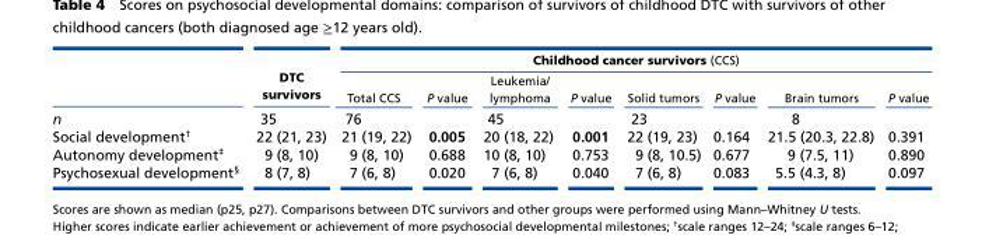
<table><thead><tr><td rowspan="2"></td><td rowspan="2">DTC survivors</td><td colspan="8">Childhood cancer survivors (CCS)</td></tr><tr><td>Total CCS</td><td>P value</td><td>Leukemia/ lymphoma</td><td>P value</td><td>Solid tumors</td><td>P value</td><td>Brain tumors</td><td>P value</td></tr></thead><tbody><tr><td>n</td><td>35</td><td>76</td><td></td><td>45</td><td></td><td>23</td><td></td><td>8</td><td></td></tr><tr><td>Social development<sup>†</sup></td><td>22 (21, 23)</td><td>21 (19, 22)</td><td>0.005</td><td>20 (18, 22)</td><td>0.001</td><td>22 (19, 23)</td><td>0.164</td><td>21.5 (20.3, 22.8)</td><td>0.391</td></tr><tr><td>Autonomy development<sup>‡</sup></td><td>9 (8, 10)</td><td>9 (8, 10)</td><td>0.688</td><td>10 (8, 10)</td><td>0.753</td><td>9 (8, 10.5)</td><td>0.677</td><td>9 (7.5, 11)</td><td>0.890</td></tr><tr><td>Psychosexual development<sup>§</sup></td><td>8 (7, 8)</td><td>7 (6, 8)</td><td>0.020</td><td>7 (6, 8)</td><td>0.040</td><td>7 (6, 8)</td><td>0.083</td><td>5.5 (4.3, 8)</td><td>0.097</td></tr></tbody></table>